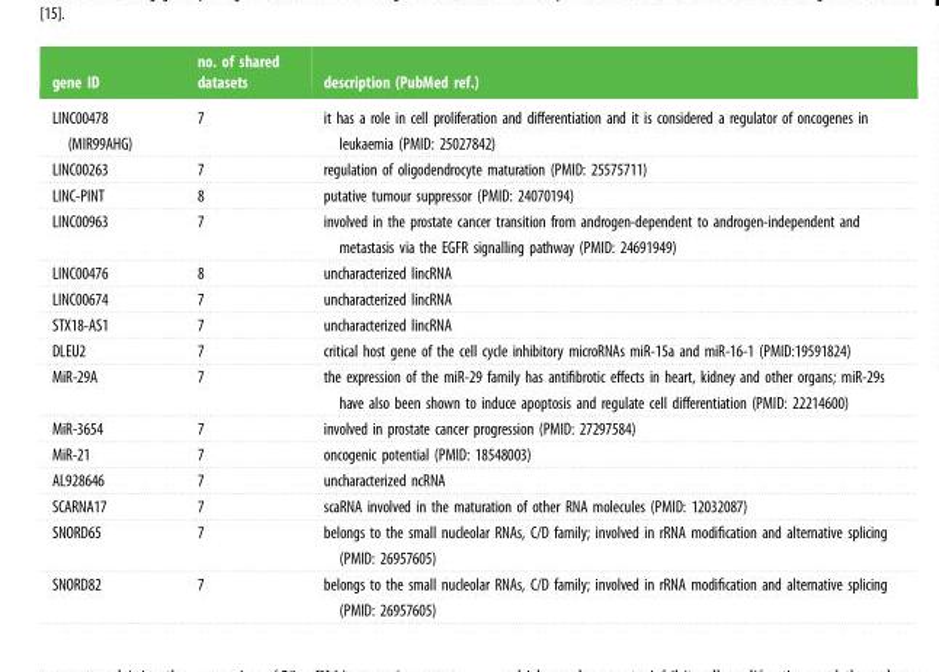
<table><thead><tr><td>gene ID</td><td>no. of shared datasets</td><td>description (PubMed ref.)</td></tr></thead><tbody><tr><td>LINC00478 (MIR99AHG)</td><td>7</td><td>it has a role in cell proliferation and differentiation and it is considered a regulator of oncogenes in leukaemia (PMID: 25027842)</td></tr><tr><td>LINC00263</td><td>7</td><td>regulation of oligodendrocyte maturation (PMID: 25575711)</td></tr><tr><td>LINC-PINT</td><td>8</td><td>putative tumour suppressor (PMID: 24070194)</td></tr><tr><td>LINC00963</td><td>7</td><td>involved in the prostate cancer transition from androgen-dependent to androgen-independent and metastasis via the EGFR signalling pathway (PMID: 24691949)</td></tr><tr><td>LINC00476</td><td>8</td><td>uncharacterized lincRNA</td></tr><tr><td>LINC00674</td><td>7</td><td>uncharacterized lincRNA</td></tr><tr><td>STX18-AS1</td><td>7</td><td>uncharacterized lincRNA</td></tr><tr><td>DLEU2</td><td>7</td><td>critical host gene of the cell cycle inhibitory microRNAs miR-15a and miR-16-1 (PMID:19591824)</td></tr><tr><td>MiR-29A</td><td>7</td><td>the expression of the miR-29 family has antifibrotic effects in heart, kidney and other organs; miR-29s have also been shown to induce apoptosis and regulate cell differentiation (PMID: 22214600)</td></tr><tr><td>MiR-3654</td><td>7</td><td>involved in prostate cancer progression (PMID: 27297584)</td></tr><tr><td>MiR-21</td><td>7</td><td>oncogenic potential (PMID: 18548003)</td></tr><tr><td>AL928646</td><td>7</td><td>uncharacterized ncRNA</td></tr><tr><td>SCARNA17</td><td>7</td><td>scaRNA involved in the maturation of other RNA molecules (PMID: 12032087)</td></tr><tr><td>SNORD65</td><td>7</td><td>belongs to the small nucleolar RNAs, C/D family; involved in rRNA modification and alternative splicing (PMID: 26957605)</td></tr><tr><td>SNORD82</td><td>7</td><td>belongs to the small nucleolar RNAs, C/D family; involved in rRNA modification and alternative splicing (PMID: 26957605)</td></tr></tbody></table>